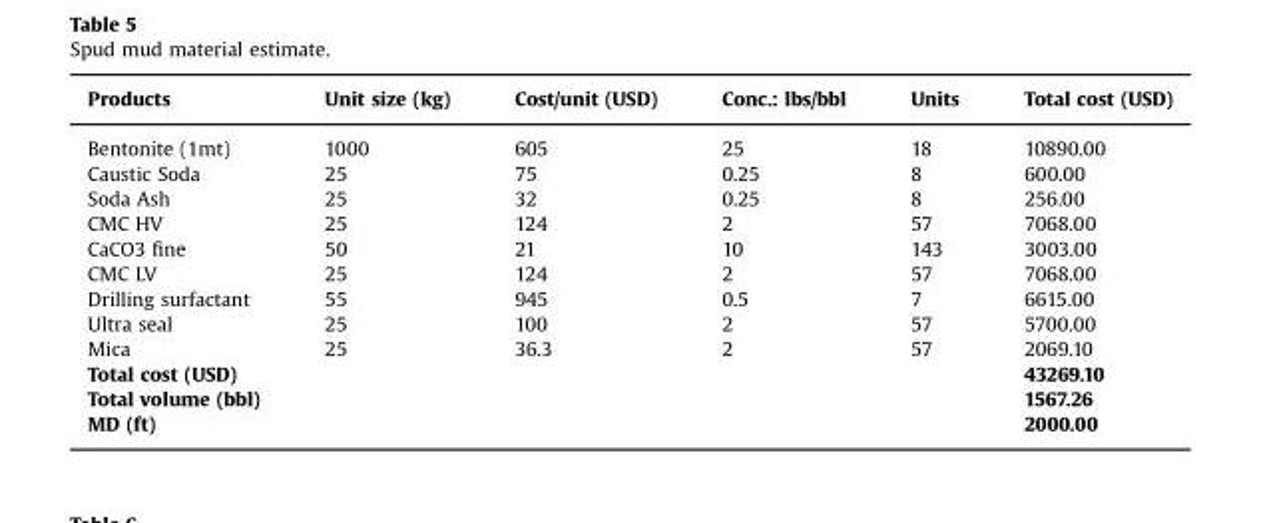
<table><thead><tr><td>Products</td><td>Unit size (kg)</td><td>Cost/unit (USD)</td><td>Conc.: lbs/bbl</td><td>Units</td><td>Total cost (USD)</td></tr></thead><tbody><tr><td>Bentonite (1mt)</td><td>1000</td><td>605</td><td>25</td><td>18</td><td>10890.00</td></tr><tr><td>Caustic Soda</td><td>25</td><td>75</td><td>0.25</td><td>8</td><td>600.00</td></tr><tr><td>Soda Ash</td><td>25</td><td>32</td><td>0.25</td><td>8</td><td>256.00</td></tr><tr><td>CMC HV</td><td>25</td><td>124</td><td>2</td><td>57</td><td>7068.00</td></tr><tr><td>CaCO3 fine</td><td>50</td><td>21</td><td>10</td><td>143</td><td>3003.00</td></tr><tr><td>CMC LV</td><td>25</td><td>124</td><td>2</td><td>57</td><td>7068.00</td></tr><tr><td>Drilling surfactant</td><td>55</td><td>945</td><td>0.5</td><td>7</td><td>6615.00</td></tr><tr><td>Ultra seal</td><td>25</td><td>100</td><td>2</td><td>57</td><td>5700.00</td></tr><tr><td>Mica</td><td>25</td><td>36.3</td><td>2</td><td>57</td><td>2069.10</td></tr><tr><td>Total cost (USD)</td><td></td><td></td><td></td><td></td><td>43269.10</td></tr><tr><td>Total volume (bbl)</td><td></td><td></td><td></td><td></td><td>1567.26</td></tr><tr><td>MD (ft)</td><td></td><td></td><td></td><td></td><td>2000.00</td></tr></tbody></table>